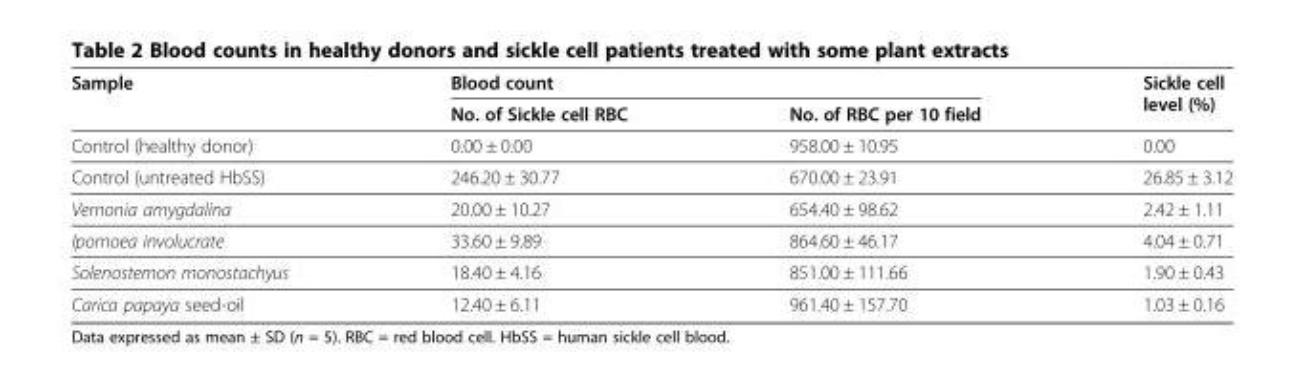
<table><thead><tr><td rowspan="2">Sample</td><td colspan="2">Blood count</td><td rowspan="2">Sickle cell level (%)</td></tr><tr><td>No. of Sickle cell RBC</td><td>No. of RBC per 10 field</td></tr></thead><tbody><tr><td>Control (healthy donor)</td><td>0.00 ± 0.00</td><td>958.00 ± 10.95</td><td>0.00</td></tr><tr><td>Control (untreated HbSS)</td><td>246.20 ± 30.77</td><td>670.00 ± 23.91</td><td>26.85 ± 3.12</td></tr><tr><td>Vernonia amygdalina</td><td>20.00 ± 10.27</td><td>654.40 ± 98.62</td><td>2.42 ± 1.11</td></tr><tr><td>Ipomoea involucrate</td><td>33.60 ± 9.89</td><td>864.60 ± 46.17</td><td>4.04 ± 0.71</td></tr><tr><td>Solenostemon monostachyus</td><td>18.40 ± 4.16</td><td>851.00 ± 111.66</td><td>1.90 ± 0.43</td></tr><tr><td>Carica papaya seed-oil</td><td>12.40 ± 6.11</td><td>961.40 ± 157.70</td><td>1.03 ± 0.16</td></tr></tbody></table>